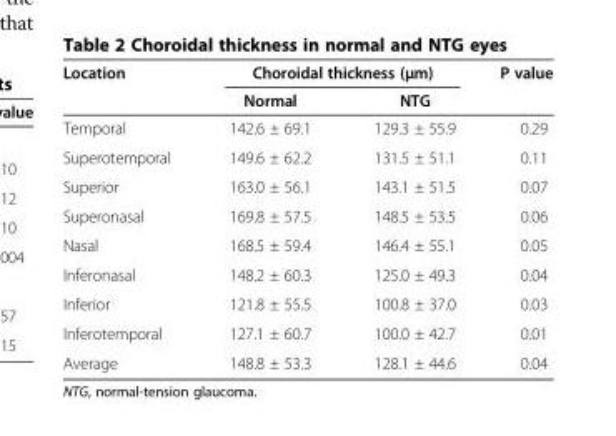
<table><thead><tr><td rowspan="2">Location</td><td colspan="2">Choroidal thickness (μm)</td><td rowspan="2">P value</td></tr><tr><td>Normal</td><td>NTG</td></tr></thead><tbody><tr><td>Temporal</td><td>142.6 ± 69.1</td><td>129.3 ± 55.9</td><td>0.29</td></tr><tr><td>Superotemporal</td><td>149.6 ± 62.2</td><td>131.5 ± 51.1</td><td>0.11</td></tr><tr><td>Superior</td><td>163.0 ± 56.1</td><td>143.1 ± 51.5</td><td>0.07</td></tr><tr><td>Superonasal</td><td>169.8 ± 57.5</td><td>148.5 ± 53.5</td><td>0.06</td></tr><tr><td>Nasal</td><td>168.5 ± 59.4</td><td>146.4 ± 55.1</td><td>0.05</td></tr><tr><td>Inferonasal</td><td>148.2 ± 60.3</td><td>125.0 ± 49.3</td><td>0.04</td></tr><tr><td>Inferior</td><td>121.8 ± 55.5</td><td>100.8 ± 37.0</td><td>0.03</td></tr><tr><td>Inferotemporal</td><td>127.1 ± 60.7</td><td>100.0 ± 42.7</td><td>0.01</td></tr><tr><td>Average</td><td>148.8 ± 53.3</td><td>128.1 ± 44.6</td><td>0.04</td></tr></tbody></table>